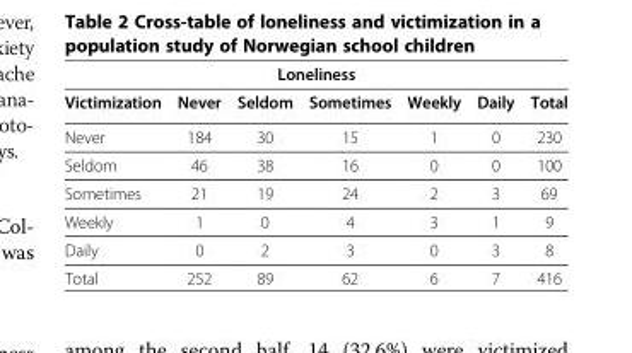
<table><thead><tr><td colspan="7">Loneliness</td></tr><tr><td>Victimization</td><td>Never</td><td>Seldom</td><td>Sometimes</td><td>Weekly</td><td>Daily</td><td>Total</td></tr></thead><tbody><tr><td>Never</td><td>184</td><td>30</td><td>15</td><td>1</td><td>0</td><td>230</td></tr><tr><td>Seldom</td><td>46</td><td>38</td><td>16</td><td>0</td><td>0</td><td>100</td></tr><tr><td>Sometimes</td><td>21</td><td>19</td><td>24</td><td>2</td><td>3</td><td>69</td></tr><tr><td>Weekly</td><td>1</td><td>0</td><td>4</td><td>3</td><td>1</td><td>9</td></tr><tr><td>Daily</td><td>0</td><td>2</td><td>3</td><td>0</td><td>3</td><td>8</td></tr><tr><td>Total</td><td>252</td><td>89</td><td>62</td><td>6</td><td>7</td><td>416</td></tr></tbody></table>